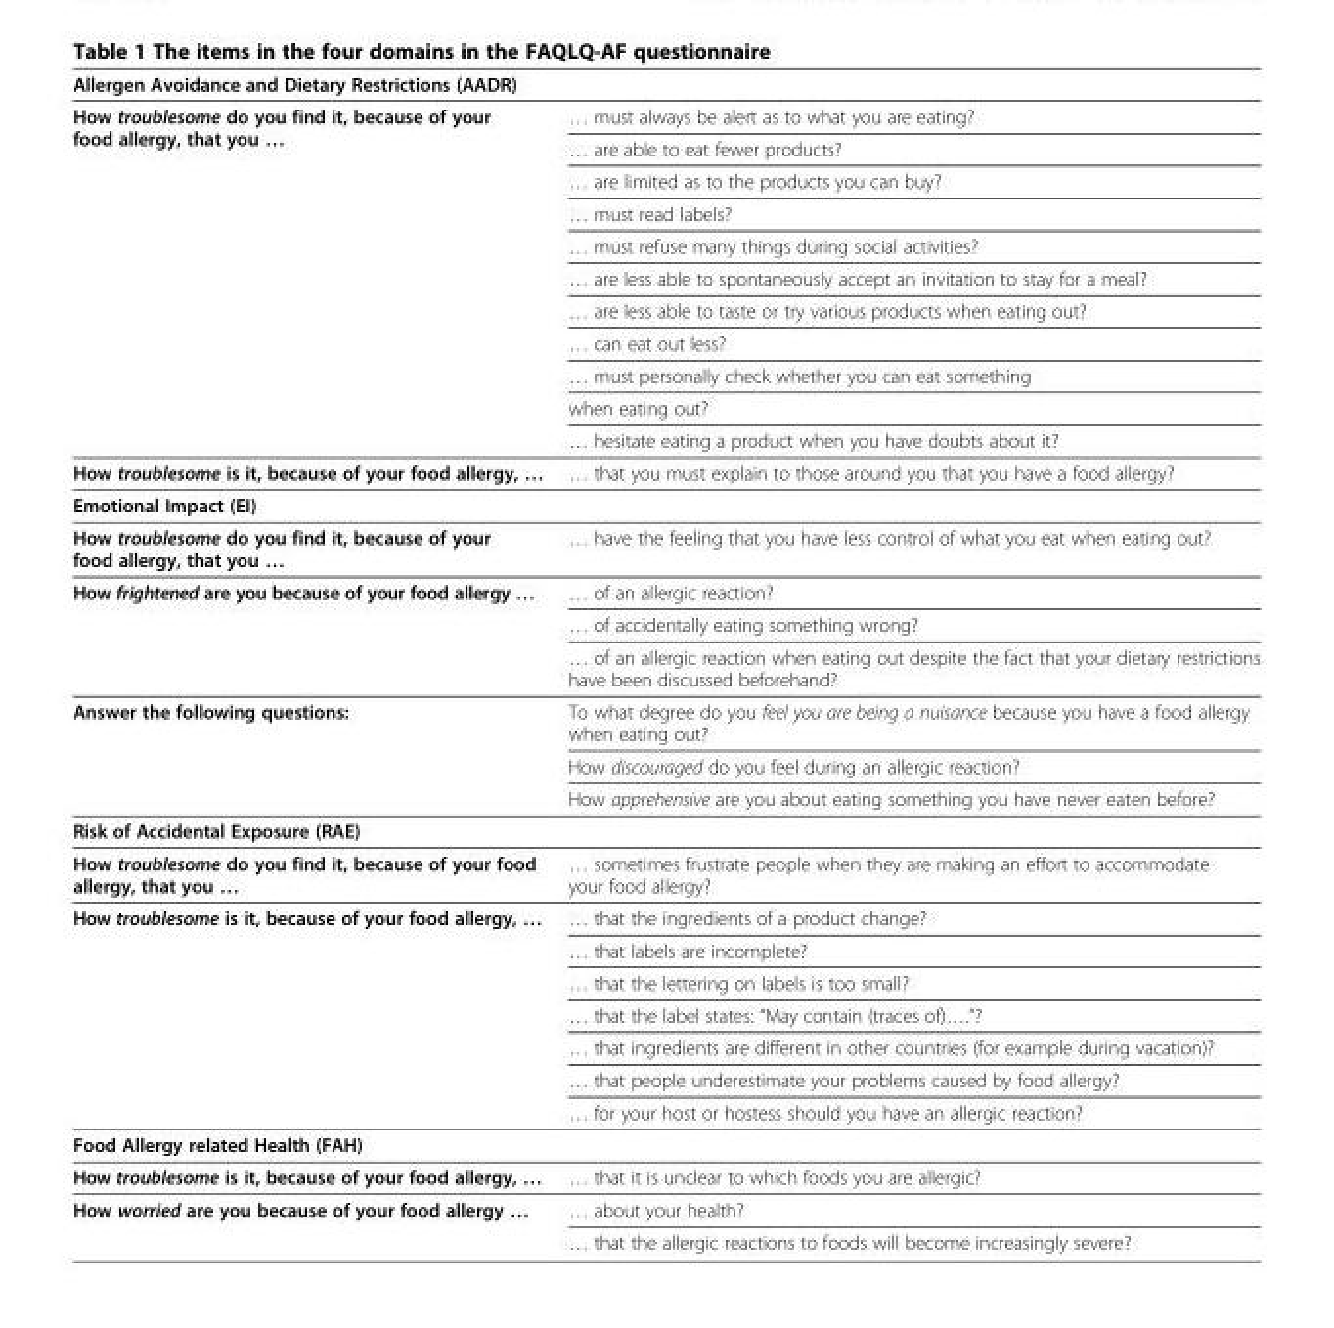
<table><tbody><tr><td colspan="2">Allergen Avoidance and Dietary Restrictions (AADR)</td></tr><tr><td rowspan="11">How troublesome do you find it, because of your food allergy, that you …</td><td>… must always be alert as to what you are eating?</td></tr><tr><td>… are able to eat fewer products?</td></tr><tr><td>… are limited as to the products you can buy?</td></tr><tr><td>… must read labels?</td></tr><tr><td>… must refuse many things during social activities?</td></tr><tr><td>… are less able to spontaneously accept an invitation to stay for a meal?</td></tr><tr><td>… are less able to taste or try various products when eating out?</td></tr><tr><td>… can eat out less?</td></tr><tr><td>… must personally check whether you can eat something</td></tr><tr><td>when eating out?</td></tr><tr><td>… hesitate eating a product when you have doubts about it?</td></tr><tr><td>How troublesome is it, because of your food allergy, …</td><td>… that you must explain to those around you that you have a food allergy?</td></tr><tr><td colspan="2">Emotional Impact (EI)</td></tr><tr><td>How troublesome do you find it, because of your food allergy, that you …</td><td>… have the feeling that you have less control of what you eat when eating out?</td></tr><tr><td rowspan="3">How frightened are you because of your food allergy …</td><td>… of an allergic reaction?</td></tr><tr><td>… of accidentally eating something wrong?</td></tr><tr><td>… of an allergic reaction when eating out despite the fact that your dietary restrictions have been discussed beforehand?</td></tr><tr><td rowspan="3">Answer the following questions:</td><td>To what degree do you feel you are being a nuisance because you have a food allergy when eating out?</td></tr><tr><td>How discouraged do you feel during an allergic reaction?</td></tr><tr><td>How apprehensive are you about eating something you have never eaten before?</td></tr><tr><td colspan="2">Risk of Accidental Exposure (RAE)</td></tr><tr><td>How troublesome do you find it, because of your food allergy, that you …</td><td>… sometimes frustrate people when they are making an effort to accommodate your food allergy?</td></tr><tr><td rowspan="7">How troublesome is it, because of your food allergy, …</td><td>… that the ingredients of a product change?</td></tr><tr><td>… that labels are incomplete?</td></tr><tr><td>… that the lettering on labels is too small?</td></tr><tr><td>… that the label states: “May contain (traces of)….”?</td></tr><tr><td>… that ingredients are different in other countries (for example during vacation)?</td></tr><tr><td>… that people underestimate your problems caused by food allergy?</td></tr><tr><td>… for your host or hostess should you have an allergic reaction?</td></tr><tr><td colspan="2">Food Allergy related Health (FAH)</td></tr><tr><td>How troublesome is it, because of your food allergy, …</td><td>… that it is unclear to which foods you are allergic?</td></tr><tr><td rowspan="2">How worried are you because of your food allergy …</td><td>… about your health?</td></tr><tr><td>… that the allergic reactions to foods will become increasingly severe?</td></tr></tbody></table>